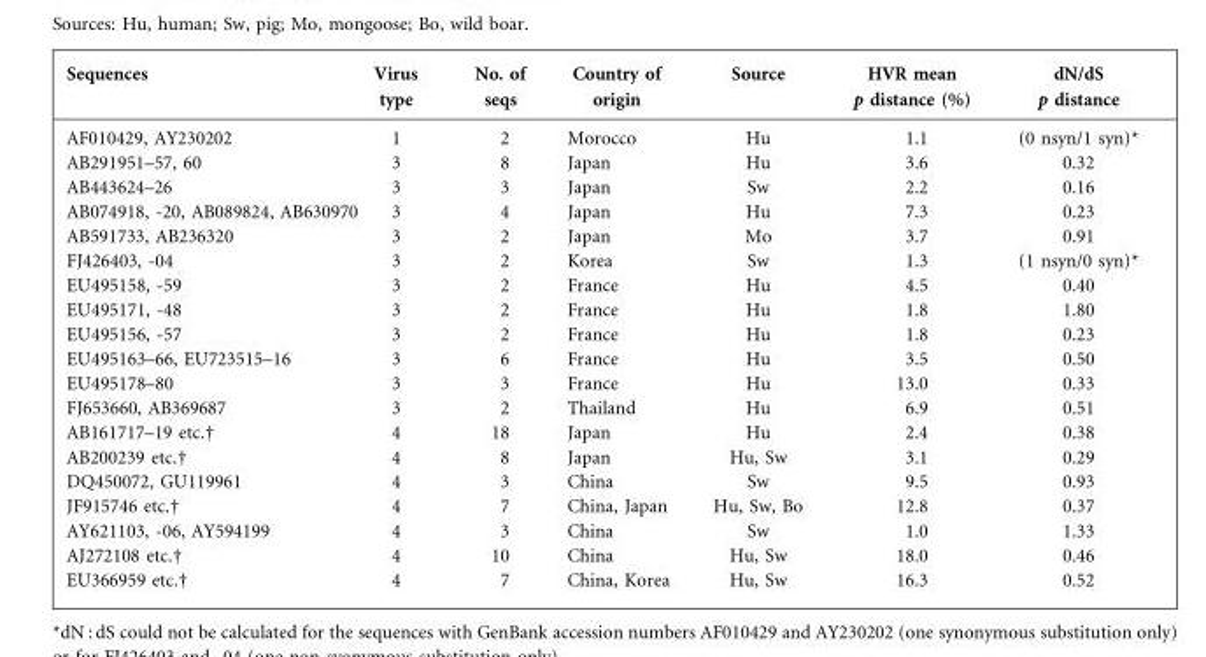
<table><thead><tr><td>Sequences</td><td>Virus type</td><td>No. of seqs</td><td>Country of origin</td><td>Source</td><td>HVR mean p distance (%)</td><td>dN/dS p distance</td></tr></thead><tbody><tr><td>AF010429, AY230202</td><td>1</td><td>2</td><td>Morocco</td><td>Hu</td><td>1.1</td><td>(0 nsyn/1 syn)*</td></tr><tr><td>AB291951–57, 60</td><td>3</td><td>8</td><td>Japan</td><td>Hu</td><td>3.6</td><td>0.32</td></tr><tr><td>AB443624–26</td><td>3</td><td>3</td><td>Japan</td><td>Sw</td><td>2.2</td><td>0.16</td></tr><tr><td>AB074918, -20, AB089824, AB630970</td><td>3</td><td>4</td><td>Japan</td><td>Hu</td><td>7.3</td><td>0.23</td></tr><tr><td>AB591733, AB236320</td><td>3</td><td>2</td><td>Japan</td><td>Mo</td><td>3.7</td><td>0.91</td></tr><tr><td>FJ426403, -04</td><td>3</td><td>2</td><td>Korea</td><td>Sw</td><td>1.3</td><td>(1 nsyn/0 syn)*</td></tr><tr><td>EU495158, -59</td><td>3</td><td>2</td><td>France</td><td>Hu</td><td>4.5</td><td>0.40</td></tr><tr><td>EU495171, -48</td><td>3</td><td>2</td><td>France</td><td>Hu</td><td>1.8</td><td>1.80</td></tr><tr><td>EU495156, -57</td><td>3</td><td>2</td><td>France</td><td>Hu</td><td>1.8</td><td>0.23</td></tr><tr><td>EU495163–66, EU723515–16</td><td>3</td><td>6</td><td>France</td><td>Hu</td><td>3.5</td><td>0.50</td></tr><tr><td>EU495178–80</td><td>3</td><td>3</td><td>France</td><td>Hu</td><td>13.0</td><td>0.33</td></tr><tr><td>FJ653660, AB369687</td><td>3</td><td>2</td><td>Thailand</td><td>Hu</td><td>6.9</td><td>0.51</td></tr><tr><td>AB161717–19 etc.†</td><td>4</td><td>18</td><td>Japan</td><td>Hu</td><td>2.4</td><td>0.38</td></tr><tr><td>AB200239 etc.†</td><td>4</td><td>8</td><td>Japan</td><td>Hu, Sw</td><td>3.1</td><td>0.29</td></tr><tr><td>DQ450072, GU119961</td><td>4</td><td>3</td><td>China</td><td>Sw</td><td>9.5</td><td>0.93</td></tr><tr><td>JF915746 etc.†</td><td>4</td><td>7</td><td>China, Japan</td><td>Hu, Sw, Bo</td><td>12.8</td><td>0.37</td></tr><tr><td>AY621103, -06, AY594199</td><td>4</td><td>3</td><td>China</td><td>Sw</td><td>1.0</td><td>1.33</td></tr><tr><td>AJ272108 etc.†</td><td>4</td><td>10</td><td>China</td><td>Hu, Sw</td><td>18.0</td><td>0.46</td></tr><tr><td>EU366959 etc.†</td><td>4</td><td>7</td><td>China, Korea</td><td>Hu, Sw</td><td>16.3</td><td>0.52</td></tr></tbody></table>